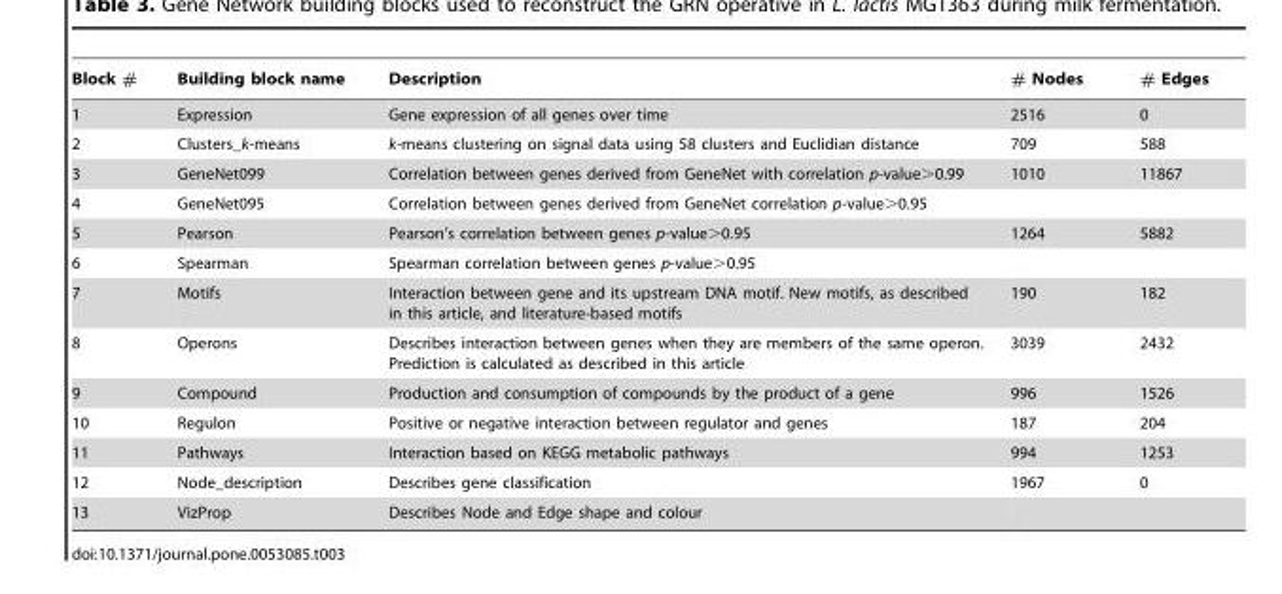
<table><thead><tr><td>Block #</td><td>Building block name</td><td>Description</td><td># Nodes</td><td># Edges</td></tr></thead><tbody><tr><td>1</td><td>Expression</td><td>Gene expression of all genes over time</td><td>2516</td><td>0</td></tr><tr><td>2</td><td>Clusters_k-means</td><td>k-means clustering on signal data using 58 clusters and Euclidian distance</td><td>709</td><td>588</td></tr><tr><td>3</td><td>GeneNet099</td><td>Correlation between genes derived from GeneNet with correlation p-value&gt;0.99</td><td>1010</td><td>11867</td></tr><tr><td>4</td><td>GeneNet095</td><td>Correlation between genes derived from GeneNet correlation p-value&gt;0.95</td><td></td><td></td></tr><tr><td>5</td><td>Pearson</td><td>Pearson’s correlation between genes p-value&gt;0.95</td><td>1264</td><td>5882</td></tr><tr><td>6</td><td>Spearman</td><td>Spearman correlation between genes p-value&gt;0.95</td><td></td><td></td></tr><tr><td>7</td><td>Motifs</td><td>Interaction between gene and its upstream DNA motif. New motifs, as described in this article, and literature-based motifs</td><td>190</td><td>182</td></tr><tr><td>8</td><td>Operons</td><td>Describes interaction between genes when they are members of the same operon. Prediction is calculated as described in this article</td><td>3039</td><td>2432</td></tr><tr><td>9</td><td>Compound</td><td>Production and consumption of compounds by the product of a gene</td><td>996</td><td>1526</td></tr><tr><td>10</td><td>Regulon</td><td>Positive or negative interaction between regulator and genes</td><td>187</td><td>204</td></tr><tr><td>11</td><td>Pathways</td><td>Interaction based on KEGG metabolic pathways</td><td>994</td><td>1253</td></tr><tr><td>12</td><td>Node_description</td><td>Describes gene classification</td><td>1967</td><td>0</td></tr><tr><td>13</td><td>VizProp</td><td>Describes Node and Edge shape and colour</td><td></td><td></td></tr></tbody></table>